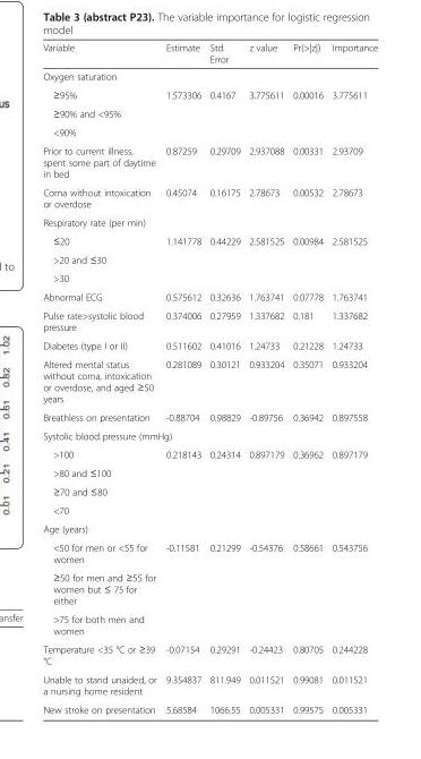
<table><thead><tr><td>Variable</td><td>Estimate</td><td>Std. Error</td><td>z value</td><td>Pr(&gt;|z|)</td><td>Importance</td></tr></thead><tbody><tr><td colspan="6">Oxygen saturation</td></tr><tr><td>≥95%</td><td rowspan="3">1.573306</td><td rowspan="3">0.4167</td><td rowspan="3">3.775611</td><td rowspan="3">0.00016</td><td rowspan="3">3.775611</td></tr><tr><td>≥90% and &lt;95%</td></tr><tr><td>&lt;90%</td></tr><tr><td>Prior to current illness, spent some part of daytime in bed</td><td>0.87259</td><td>0.29709</td><td>2.937088</td><td>0.00331</td><td>2.93709</td></tr><tr><td>Coma without intoxication or overdose</td><td>0.45074</td><td>0.16175</td><td>2.78673</td><td>0.00532</td><td>2.78673</td></tr><tr><td colspan="6">Respiratory rate (per min)</td></tr><tr><td>≤20</td><td rowspan="3">1.141778</td><td rowspan="3">0.44229</td><td rowspan="3">2.581525</td><td rowspan="3">0.00984</td><td rowspan="3">2.581525</td></tr><tr><td>&gt;20 and ≤30</td></tr><tr><td>&gt;30</td></tr><tr><td>Abnormal ECG</td><td>0.575612</td><td>0.32636</td><td>1.763741</td><td>0.07778</td><td>1.763741</td></tr><tr><td>Pulse rate&gt;systolic blood pressure</td><td>0.374006</td><td>0.27959</td><td>1.337682</td><td>0.181</td><td>1.337682</td></tr><tr><td>Diabetes (type I or II)</td><td>0.511602</td><td>0.41016</td><td>1.24733</td><td>0.21228</td><td>1.24733</td></tr><tr><td>Altered mental status without coma, intoxication or overdose, and aged ≥50 years</td><td>0.281089</td><td>0.30121</td><td>0.933204</td><td>0.35071</td><td>0.933204</td></tr><tr><td>Breathless on presentation</td><td>-0.88704</td><td>0.98829</td><td>-0.89756</td><td>0.36942</td><td>0.897558</td></tr><tr><td colspan="6">Systolic blood pressure (mmHg)</td></tr><tr><td>&gt;100</td><td rowspan="4">0.218143</td><td rowspan="4">0.24314</td><td rowspan="4">0.897179</td><td rowspan="4">0.36962</td><td rowspan="4">0.897179</td></tr><tr><td>&gt;80 and ≤100</td></tr><tr><td>≥70 and ≤80</td></tr><tr><td>&lt;70</td></tr><tr><td colspan="6">Age (years)</td></tr><tr><td>&lt;50 for men or &lt;55 for women</td><td rowspan="3">-0.11581</td><td rowspan="3">0.21299</td><td rowspan="3">-0.54376</td><td rowspan="3">0.58661</td><td rowspan="3">0.543756</td></tr><tr><td>≥50 for men and ≥55 for women but ≤ 75 for either</td></tr><tr><td>&gt;75 for both men and women</td></tr><tr><td>Temperature &lt;35 °C or ≥39 °C</td><td>-0.07154</td><td>0.29291</td><td>-0.24423</td><td>0.80705</td><td>0.244228</td></tr><tr><td>Unable to stand unaided, or a nursing home resident</td><td>9.354837</td><td>811.949</td><td>0.011521</td><td>0.99081</td><td>0.011521</td></tr><tr><td>New stroke on presentation</td><td>5.68584</td><td>1066.55</td><td>0.005331</td><td>0.99575</td><td>0.005331</td></tr></tbody></table>